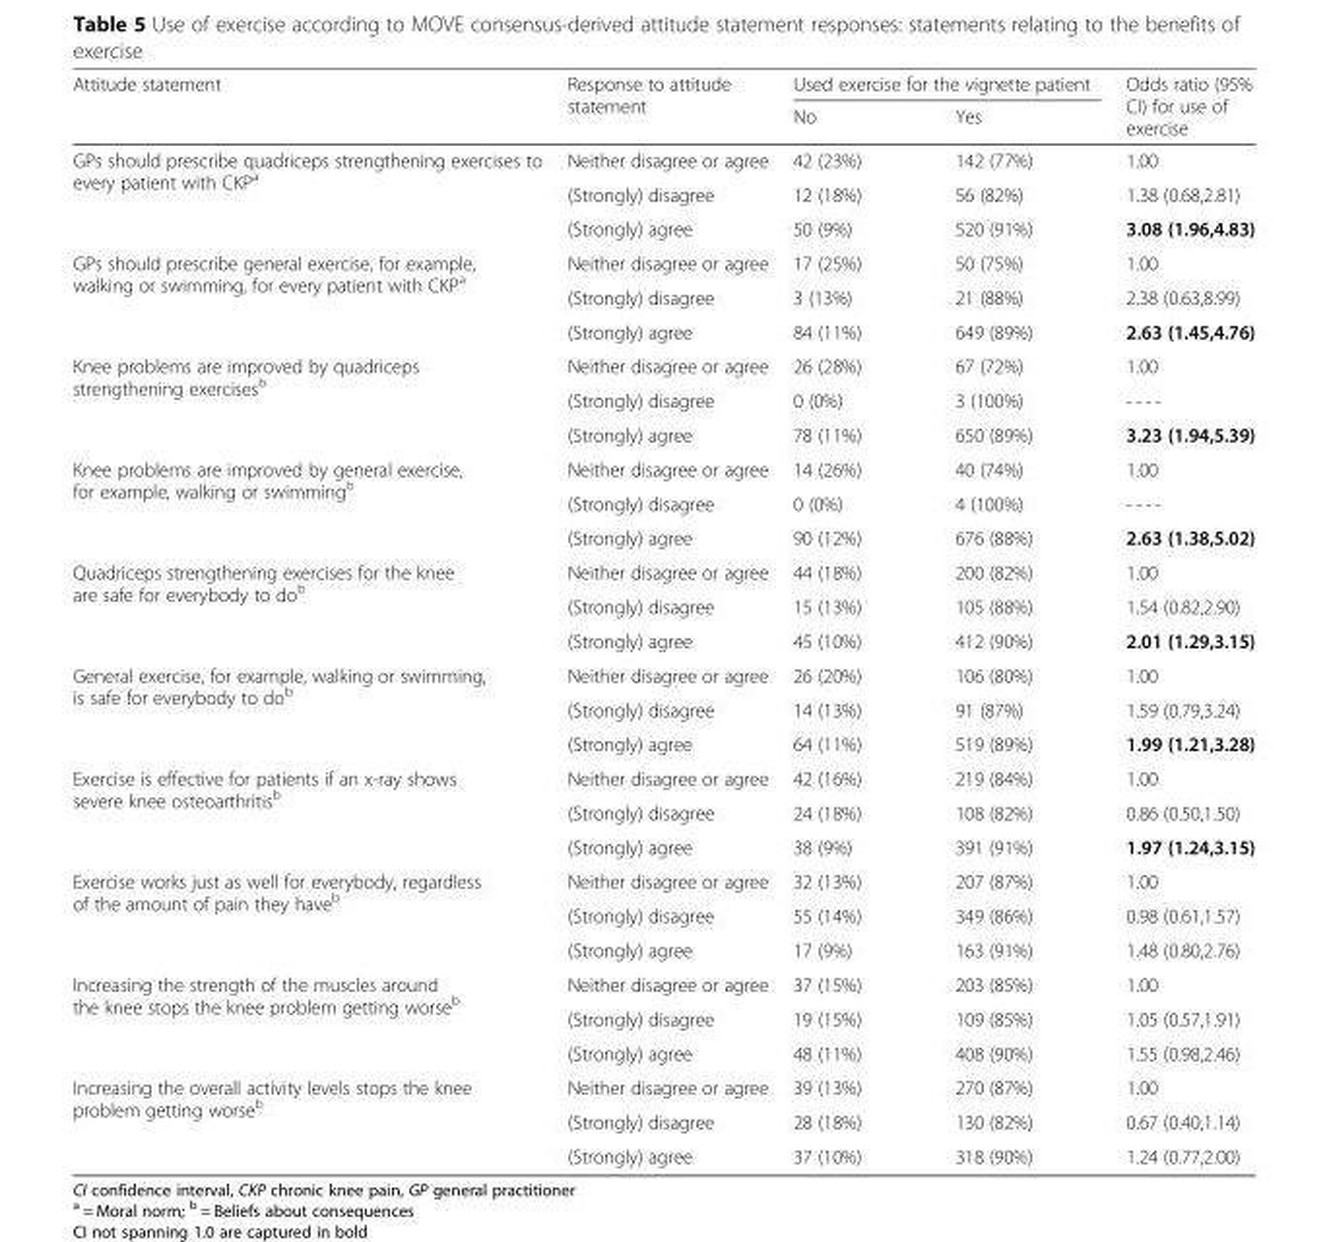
<table><thead><tr><td rowspan="2">Attitude statement</td><td rowspan="2">Response to attitude statement</td><td colspan="2">Used exercise for the vignette patient</td><td rowspan="2">Odds ratio (95% CI) for use of exercise</td></tr><tr><td>No</td><td>Yes</td></tr></thead><tbody><tr><td rowspan="3">GPs should prescribe quadriceps strengthening exercises to every patient with CKP<sup>a</sup></td><td>Neither disagree or agree</td><td>42 (23%)</td><td>142 (77%)</td><td>1.00</td></tr><tr><td>(Strongly) disagree</td><td>12 (18%)</td><td>56 (82%)</td><td>1.38 (0.68,2.81)</td></tr><tr><td>(Strongly) agree</td><td>50 (9%)</td><td>520 (91%)</td><td>3.08 (1.96,4.83)</td></tr><tr><td rowspan="3">GPs should prescribe general exercise, for example, walking or swimming, for every patient with CKP<sup>a</sup></td><td>Neither disagree or agree</td><td>17 (25%)</td><td>50 (75%)</td><td>1.00</td></tr><tr><td>(Strongly) disagree</td><td>3 (13%)</td><td>21 (88%)</td><td>2.38 (0.63,8.99)</td></tr><tr><td>(Strongly) agree</td><td>84 (11%)</td><td>649 (89%)</td><td>2.63 (1.45,4.76)</td></tr><tr><td rowspan="3">Knee problems are improved by quadriceps strengthening exercises<sup>b</sup></td><td>Neither disagree or agree</td><td>26 (28%)</td><td>67 (72%)</td><td>1.00</td></tr><tr><td>(Strongly) disagree</td><td>0 (0%)</td><td>3 (100%)</td><td>- - - -</td></tr><tr><td>(Strongly) agree</td><td>78 (11%)</td><td>650 (89%)</td><td>3.23 (1.94,5.39)</td></tr><tr><td rowspan="3">Knee problems are improved by general exercise, for example, walking or swimming<sup>b</sup></td><td>Neither disagree or agree</td><td>14 (26%)</td><td>40 (74%)</td><td>1.00</td></tr><tr><td>(Strongly) disagree</td><td>0 (0%)</td><td>4 (100%)</td><td>- - - -</td></tr><tr><td>(Strongly) agree</td><td>90 (12%)</td><td>676 (88%)</td><td>2.63 (1.38,5.02)</td></tr><tr><td rowspan="3">Quadriceps strengthening exercises for the knee are safe for everybody to do<sup>b</sup></td><td>Neither disagree or agree</td><td>44 (18%)</td><td>200 (82%)</td><td>1.00</td></tr><tr><td>(Strongly) disagree</td><td>15 (13%)</td><td>105 (88%)</td><td>1.54 (0.82,2.90)</td></tr><tr><td>(Strongly) agree</td><td>45 (10%)</td><td>412 (90%)</td><td>2.01 (1.29,3.15)</td></tr><tr><td rowspan="3">General exercise, for example, walking or swimming, is safe for everybody to do<sup>b</sup></td><td>Neither disagree or agree</td><td>26 (20%)</td><td>106 (80%)</td><td>1.00</td></tr><tr><td>(Strongly) disagree</td><td>14 (13%)</td><td>91 (87%)</td><td>1.59 (0.79,3.24)</td></tr><tr><td>(Strongly) agree</td><td>64 (11%)</td><td>519 (89%)</td><td>1.99 (1.21,3.28)</td></tr><tr><td rowspan="3">Exercise is effective for patients if an x-ray shows severe knee osteoarthritis<sup>b</sup></td><td>Neither disagree or agree</td><td>42 (16%)</td><td>219 (84%)</td><td>1.00</td></tr><tr><td>(Strongly) disagree</td><td>24 (18%)</td><td>108 (82%)</td><td>0.86 (0.50,1.50)</td></tr><tr><td>(Strongly) agree</td><td>38 (9%)</td><td>391 (91%)</td><td>1.97 (1.24,3.15)</td></tr><tr><td rowspan="3">Exercise works just as well for everybody, regardless of the amount of pain they have<sup>b</sup></td><td>Neither disagree or agree</td><td>32 (13%)</td><td>207 (87%)</td><td>1.00</td></tr><tr><td>(Strongly) disagree</td><td>55 (14%)</td><td>349 (86%)</td><td>0.98 (0.61,1.57)</td></tr><tr><td>(Strongly) agree</td><td>17 (9%)</td><td>163 (91%)</td><td>1.48 (0.80,2.76)</td></tr><tr><td rowspan="3">Increasing the strength of the muscles around the knee stops the knee problem getting worse<sup>b</sup></td><td>Neither disagree or agree</td><td>37 (15%)</td><td>203 (85%)</td><td>1.00</td></tr><tr><td>(Strongly) disagree</td><td>19 (15%)</td><td>109 (85%)</td><td>1.05 (0.57,1.91)</td></tr><tr><td>(Strongly) agree</td><td>48 (11%)</td><td>408 (90%)</td><td>1.55 (0.98,2.46)</td></tr><tr><td rowspan="3">Increasing the overall activity levels stops the knee problem getting worse<sup>b</sup></td><td>Neither disagree or agree</td><td>39 (13%)</td><td>270 (87%)</td><td>1.00</td></tr><tr><td>(Strongly) disagree</td><td>28 (18%)</td><td>130 (82%)</td><td>0.67 (0.40,1.14)</td></tr><tr><td>(Strongly) agree</td><td>37 (10%)</td><td>318 (90%)</td><td>1.24 (0.77,2.00)</td></tr></tbody></table>